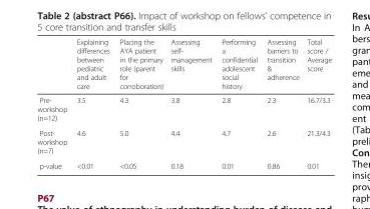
<table><thead><tr><td></td><td>Explaining differences between pediatric and adult care</td><td>Placing the AYA patient in the primary role (parent for corroboration)</td><td>Assessing self- management skills</td><td>Performing a confidential adolescent social history</td><td>Assessing barriers to transition &amp; adherence</td><td>Total score / Average score</td></tr></thead><tbody><tr><td>Pre- workshop (n=12)</td><td>3.5</td><td>4.3</td><td>3.8</td><td>2.8</td><td>2.3</td><td>16.7/3.3</td></tr><tr><td>Post- workshop (n=7)</td><td>4.6</td><td>5.0</td><td>4.4</td><td>4.7</td><td>2.6</td><td>21.3/4.3</td></tr><tr><td>p-value</td><td>&lt;0.01</td><td>&lt;0.05</td><td>0.18</td><td>0.01</td><td>0.86</td><td>0.01</td></tr></tbody></table>